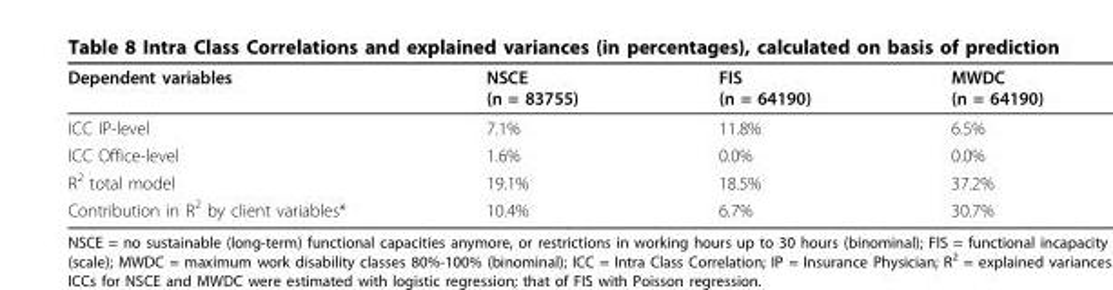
<table><thead><tr><td>Dependent variables</td><td>NSCE (n = 83755)</td><td>FIS (n = 64190)</td><td>MWDC (n = 64190)</td></tr></thead><tbody><tr><td>ICC IP-level</td><td>7.1%</td><td>11.8%</td><td>6.5%</td></tr><tr><td>ICC Office-level</td><td>1.6%</td><td>0.0%</td><td>0.0%</td></tr><tr><td>R<sup>2</sup> total model</td><td>19.1%</td><td>18.5%</td><td>37.2%</td></tr><tr><td>Contribution in R<sup>2</sup> by client variables*</td><td>10.4%</td><td>6.7%</td><td>30.7%</td></tr></tbody></table>